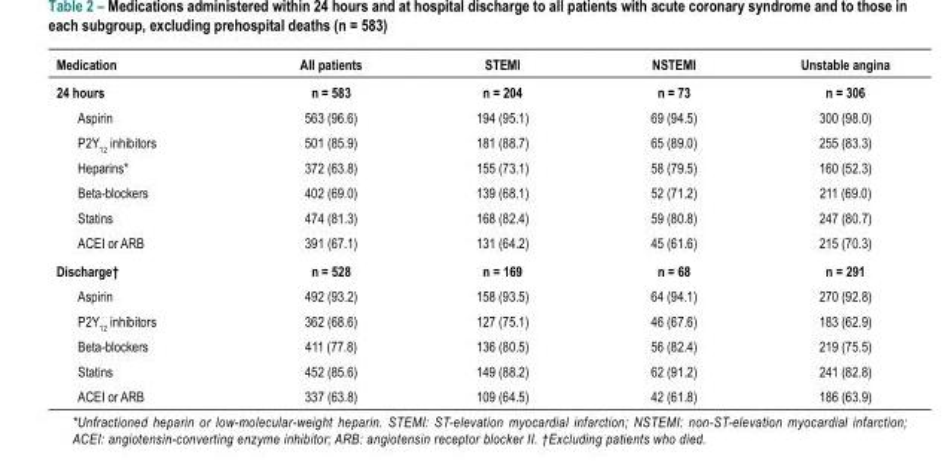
<table><thead><tr><td>Medication</td><td>All patients</td><td>STEMI</td><td>NSTEMI</td><td>Unstable angina</td></tr></thead><tbody><tr><td>24 hours</td><td>n = 583</td><td>n = 204</td><td>n = 73</td><td>n = 306</td></tr><tr><td>Aspirin</td><td>563 (96.6)</td><td>194 (95.1)</td><td>69 (94.5)</td><td>300 (98.0)</td></tr><tr><td>P2Y<sub>12</sub> inhibitors</td><td>501 (85.9)</td><td>181 (88.7)</td><td>65 (89.0)</td><td>255 (83.3)</td></tr><tr><td>Heparins*</td><td>372 (63.8)</td><td>155 (73.1)</td><td>58 (79.5)</td><td>160 (52.3)</td></tr><tr><td>Beta-blockers</td><td>402 (69.0)</td><td>139 (68.1)</td><td>52 (71.2)</td><td>211 (69.0)</td></tr><tr><td>Statins</td><td>474 (81.3)</td><td>168 (82.4)</td><td>59 (80.8)</td><td>247 (80.7)</td></tr><tr><td>ACEI or ARB</td><td>391 (67.1)</td><td>131 (64.2)</td><td>45 (61.6)</td><td>215 (70.3)</td></tr><tr><td>Discharge†</td><td>n = 528</td><td>n = 169</td><td>n = 68</td><td>n = 291</td></tr><tr><td>Aspirin</td><td>492 (93.2)</td><td>158 (93.5)</td><td>64 (94.1)</td><td>270 (92.8)</td></tr><tr><td>P2Y<sub>12</sub> inhibitors</td><td>362 (68.6)</td><td>127 (75.1)</td><td>46 (67.6)</td><td>183 (62.9)</td></tr><tr><td>Beta-blockers</td><td>411 (77.8)</td><td>136 (80.5)</td><td>56 (82.4)</td><td>219 (75.5)</td></tr><tr><td>Statins</td><td>452 (85.6)</td><td>149 (88.2)</td><td>62 (91.2)</td><td>241 (82.8)</td></tr><tr><td>ACEI or ARB</td><td>337 (63.8)</td><td>109 (64.5)</td><td>42 (61.8)</td><td>186 (63.9)</td></tr></tbody></table>